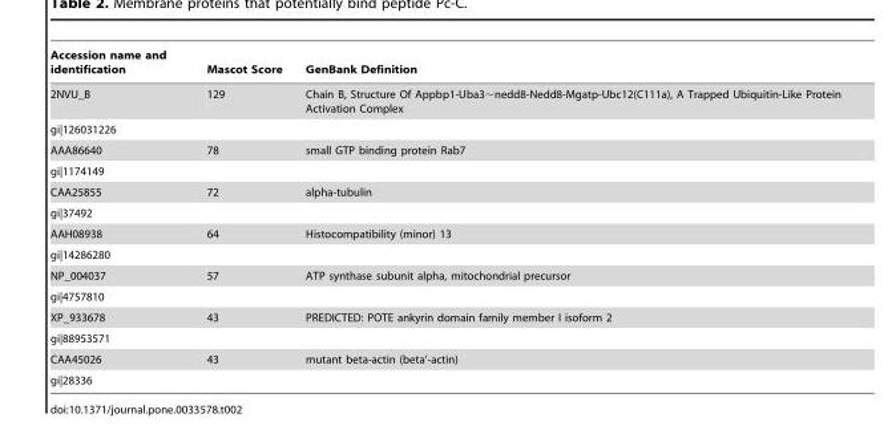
<table><thead><tr><td>Accession name and identification</td><td>Mascot Score</td><td>GenBank Definition</td></tr></thead><tbody><tr><td>2NVU_B</td><td>129</td><td>Chain B, Structure Of Appbp1-Uba3∼nedd8-Nedd8-Mgatp-Ubc12(C111a), A Trapped Ubiquitin-Like Protein Activation Complex</td></tr><tr><td colspan="3">gi|126031226</td></tr><tr><td>AAA86640</td><td>78</td><td>small GTP binding protein Rab7</td></tr><tr><td colspan="3">gi|1174149</td></tr><tr><td>CAA25855</td><td>72</td><td>alpha-tubulin</td></tr><tr><td colspan="3">gi|37492</td></tr><tr><td>AAH08938</td><td>64</td><td>Histocompatibility (minor) 13</td></tr><tr><td colspan="3">gi|14286280</td></tr><tr><td>NP_004037</td><td>57</td><td>ATP synthase subunit alpha, mitochondrial precursor</td></tr><tr><td colspan="3">gi|4757810</td></tr><tr><td>XP_933678</td><td>43</td><td>PREDICTED: POTE ankyrin domain family member I isoform 2</td></tr><tr><td colspan="3">gi|88953571</td></tr><tr><td>CAA45026</td><td>43</td><td>mutant beta-actin (beta’-actin)</td></tr><tr><td>gi|28336</td><td></td><td></td></tr></tbody></table>